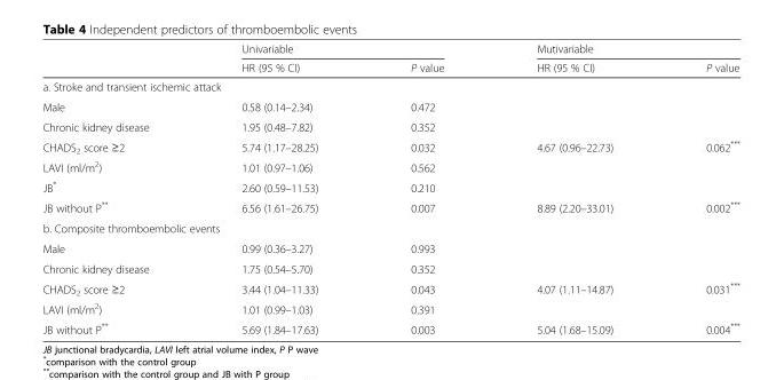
<table><thead><tr><td rowspan="2"></td><td colspan="2">Univariable</td><td colspan="2">Mutivariable</td></tr><tr><td>HR (95 % CI)</td><td>P value</td><td>HR (95 % CI)</td><td>P value</td></tr></thead><tbody><tr><td colspan="5">a. Stroke and transient ischemic attack</td></tr><tr><td>Male</td><td>0.58 (0.14–2.34)</td><td>0.472</td><td></td><td></td></tr><tr><td>Chronic kidney disease</td><td>1.95 (0.48–7.82)</td><td>0.352</td><td></td><td></td></tr><tr><td>CHADS<sub>2</sub> score ≥2</td><td>5.74 (1.17–28.25)</td><td>0.032</td><td>4.67 (0.96–22.73)</td><td>0.062***</td></tr><tr><td>LAVI (ml/m<sup>2</sup>)</td><td>1.01 (0.97–1.06)</td><td>0.562</td><td></td><td></td></tr><tr><td>JB*</td><td>2.60 (0.59–11.53)</td><td>0.210</td><td></td><td></td></tr><tr><td>JB without P**</td><td>6.56 (1.61–26.75)</td><td>0.007</td><td>8.89 (2.20–33.01)</td><td>0.002***</td></tr><tr><td colspan="5">b. Composite thromboembolic events</td></tr><tr><td>Male</td><td>0.99 (0.36–3.27)</td><td>0.993</td><td></td><td></td></tr><tr><td>Chronic kidney disease</td><td>1.75 (0.54–5.70)</td><td>0.352</td><td></td><td></td></tr><tr><td>CHADS<sub>2</sub> score ≥2</td><td>3.44 (1.04–11.33)</td><td>0.043</td><td>4.07 (1.11–14.87)</td><td>0.031***</td></tr><tr><td>LAVI (ml/m<sup>2</sup>)</td><td>1.01 (0.99–1.03)</td><td>0.391</td><td></td><td></td></tr><tr><td>JB without P**</td><td>5.69 (1.84–17.63)</td><td>0.003</td><td>5.04 (1.68–15.09)</td><td>0.004***</td></tr></tbody></table>